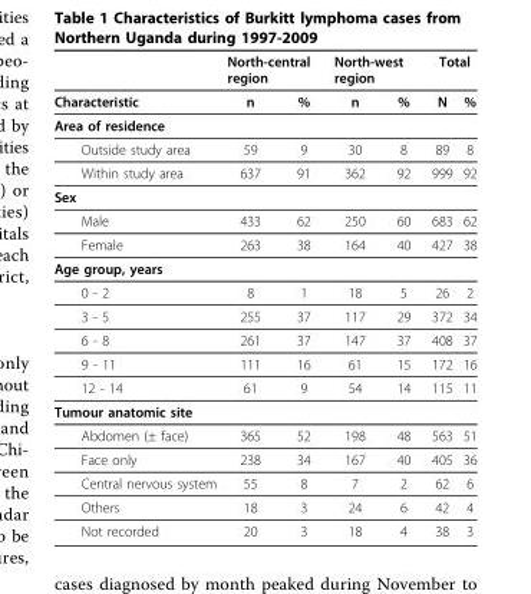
<table><thead><tr><td rowspan="2">Characteristic</td><td colspan="2">North-central region</td><td colspan="2">North-west region</td><td colspan="2">Total</td></tr><tr><td>n</td><td>%</td><td>n</td><td>%</td><td>N</td><td>%</td></tr></thead><tbody><tr><td colspan="7">Area of residence</td></tr><tr><td>Outside study area</td><td>59</td><td>9</td><td>30</td><td>8</td><td>89</td><td>8</td></tr><tr><td>Within study area</td><td>637</td><td>91</td><td>362</td><td>92</td><td>999</td><td>92</td></tr><tr><td colspan="7">Sex</td></tr><tr><td>Male</td><td>433</td><td>62</td><td>250</td><td>60</td><td>683</td><td>62</td></tr><tr><td>Female</td><td>263</td><td>38</td><td>164</td><td>40</td><td>427</td><td>38</td></tr><tr><td colspan="7">Age group, years</td></tr><tr><td>0 - 2</td><td>8</td><td>1</td><td>18</td><td>5</td><td>26</td><td>2</td></tr><tr><td>3 - 5</td><td>255</td><td>37</td><td>117</td><td>29</td><td>372</td><td>34</td></tr><tr><td>6 - 8</td><td>261</td><td>37</td><td>147</td><td>37</td><td>408</td><td>37</td></tr><tr><td>9 - 11</td><td>111</td><td>16</td><td>61</td><td>15</td><td>172</td><td>16</td></tr><tr><td>12 - 14</td><td>61</td><td>9</td><td>54</td><td>14</td><td>115</td><td>11</td></tr><tr><td colspan="7">Tumour anatomic site</td></tr><tr><td>Abdomen (± face)</td><td>365</td><td>52</td><td>198</td><td>48</td><td>563</td><td>51</td></tr><tr><td>Face only</td><td>238</td><td>34</td><td>167</td><td>40</td><td>405</td><td>36</td></tr><tr><td>Central nervous system</td><td>55</td><td>8</td><td>7</td><td>2</td><td>62</td><td>6</td></tr><tr><td>Others</td><td>18</td><td>3</td><td>24</td><td>6</td><td>42</td><td>4</td></tr><tr><td>Not recorded</td><td>20</td><td>3</td><td>18</td><td>4</td><td>38</td><td>3</td></tr></tbody></table>